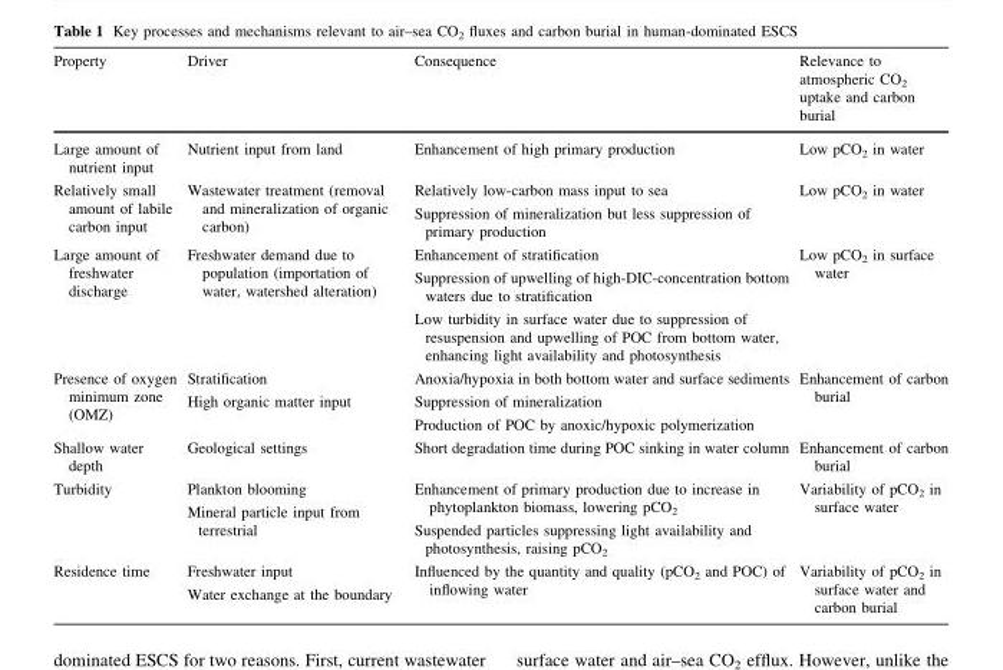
<table><thead><tr><td>Property</td><td>Driver</td><td>Consequence</td><td>Relevance to atmospheric CO<sub>2</sub> uptake and carbon burial</td></tr></thead><tbody><tr><td>Large amount of nutrient input</td><td>Nutrient input from land</td><td>Enhancement of high primary production</td><td>Low pCO<sub>2</sub> in water</td></tr><tr><td>Relatively small amount of labile carbon input</td><td>Wastewater treatment (removal and mineralization of organic carbon)</td><td>Relatively low-carbon mass input to sea Suppression of mineralization but less suppression of primary production</td><td>Low pCO<sub>2</sub> in water</td></tr><tr><td>Large amount of freshwater discharge</td><td>Freshwater demand due to population (importation of water, watershed alteration)</td><td>Enhancement of stratification Suppression of upwelling of high-DIC-concentration bottom waters due to stratification Low turbidity in surface water due to suppression of resuspension and upwelling of POC from bottom water, enhancing light availability and photosynthesis</td><td>Low pCO<sub>2</sub> in surface water</td></tr><tr><td>Presence of oxygen minimum zone (OMZ)</td><td>Stratification High organic matter input</td><td>Anoxia/hypoxia in both bottom water and surface sediments Suppression of mineralization Production of POC by anoxic/hypoxic polymerization</td><td>Enhancement of carbon burial</td></tr><tr><td>Shallow water depth</td><td>Geological settings</td><td>Short degradation time during POC sinking in water column</td><td>Enhancement of carbon burial</td></tr><tr><td>Turbidity</td><td>Plankton blooming Mineral particle input from terrestrial</td><td>Enhancement of primary production due to increase in phytoplankton biomass, lowering pCO<sub>2</sub> Suspended particles suppressing light availability and photosynthesis, raising pCO<sub>2</sub></td><td>Variability of pCO<sub>2</sub> in surface water</td></tr><tr><td>Residence time</td><td>Freshwater input Water exchange at the boundary</td><td>Influenced by the quantity and quality (pCO<sub>2</sub> and POC) of inflowing water</td><td>Variability of pCO<sub>2</sub> in surface water and carbon burial</td></tr></tbody></table>